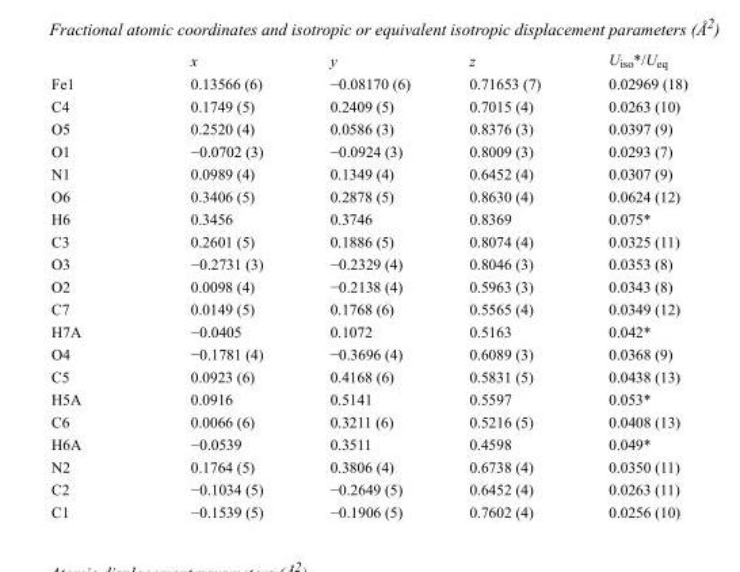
<table><thead><tr><td></td><td>x</td><td>y</td><td>z</td><td>U<sub>iso</sub>*/U<sub>eq</sub></td></tr></thead><tbody><tr><td>Fe1</td><td>0.13566 (6)</td><td>−0.08170 (6)</td><td>0.71653 (7)</td><td>0.02969 (18)</td></tr><tr><td>C4</td><td>0.1749 (5)</td><td>0.2409 (5)</td><td>0.7015 (4)</td><td>0.0263 (10)</td></tr><tr><td>O5</td><td>0.2520 (4)</td><td>0.0586 (3)</td><td>0.8376 (3)</td><td>0.0397 (9)</td></tr><tr><td>O1</td><td>−0.0702 (3)</td><td>−0.0924 (3)</td><td>0.8009 (3)</td><td>0.0293 (7)</td></tr><tr><td>N1</td><td>0.0989 (4)</td><td>0.1349 (4)</td><td>0.6452 (4)</td><td>0.0307 (9)</td></tr><tr><td>O6</td><td>0.3406 (5)</td><td>0.2878 (5)</td><td>0.8630 (4)</td><td>0.0624 (12)</td></tr><tr><td>H6</td><td>0.3456</td><td>0.3746</td><td>0.8369</td><td>0.075*</td></tr><tr><td>C3</td><td>0.2601 (5)</td><td>0.1886 (5)</td><td>0.8074 (4)</td><td>0.0325 (11)</td></tr><tr><td>O3</td><td>−0.2731 (3)</td><td>−0.2329 (4)</td><td>0.8046 (3)</td><td>0.0353 (8)</td></tr><tr><td>O2</td><td>0.0098 (4)</td><td>−0.2138 (4)</td><td>0.5963 (3)</td><td>0.0343 (8)</td></tr><tr><td>C7</td><td>0.0149 (5)</td><td>0.1768 (6)</td><td>0.5565 (4)</td><td>0.0349 (12)</td></tr><tr><td>H7A</td><td>−0.0405</td><td>0.1072</td><td>0.5163</td><td>0.042*</td></tr><tr><td>O4</td><td>−0.1781 (4)</td><td>−0.3696 (4)</td><td>0.6089 (3)</td><td>0.0368 (9)</td></tr><tr><td>C5</td><td>0.0923 (6)</td><td>0.4168 (6)</td><td>0.5831 (5)</td><td>0.0438 (13)</td></tr><tr><td>H5A</td><td>0.0916</td><td>0.5141</td><td>0.5597</td><td>0.053*</td></tr><tr><td>C6</td><td>0.0066 (6)</td><td>0.3211 (6)</td><td>0.5216 (5)</td><td>0.0408 (13)</td></tr><tr><td>H6A</td><td>−0.0539</td><td>0.3511</td><td>0.4598</td><td>0.049*</td></tr><tr><td>N2</td><td>0.1764 (5)</td><td>0.3806 (4)</td><td>0.6738 (4)</td><td>0.0350 (11)</td></tr><tr><td>C2</td><td>−0.1034 (5)</td><td>−0.2649 (5)</td><td>0.6452 (4)</td><td>0.0263 (11)</td></tr><tr><td>C1</td><td>−0.1539 (5)</td><td>−0.1906 (5)</td><td>0.7602 (4)</td><td>0.0256 (10)</td></tr></tbody></table>